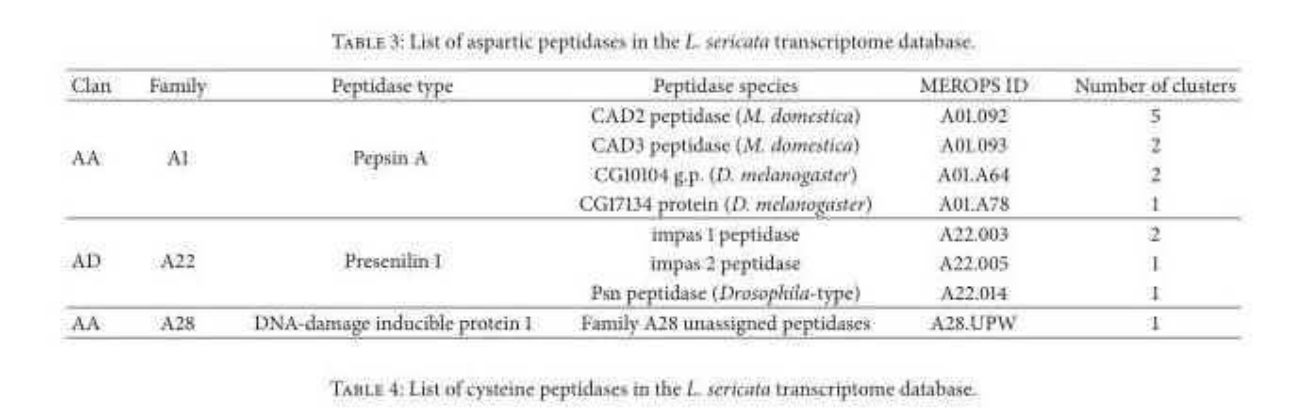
<table><thead><tr><td>Clan</td><td>Family</td><td>Peptidase type</td><td>Peptidase species</td><td>MEROPS ID</td><td>Number of clusters</td></tr></thead><tbody><tr><td rowspan="4">AA</td><td rowspan="4">A1</td><td rowspan="4">Pepsin A</td><td>CAD2 peptidase (M. domestica)</td><td>A01.092</td><td>5</td></tr><tr><td>CAD3 peptidase (M. domestica)</td><td>A01.093</td><td>2</td></tr><tr><td>CG10104 g.p. (D. melanogaster)</td><td>A01.A64</td><td>2</td></tr><tr><td>CG17134 protein (D. melanogaster)</td><td>A01.A78</td><td>1</td></tr><tr><td rowspan="3">AD</td><td rowspan="3">A22</td><td rowspan="3">Presenilin 1</td><td>impas 1 peptidase</td><td>A22.003</td><td>2</td></tr><tr><td>impas 2 peptidase</td><td>A22.005</td><td>1</td></tr><tr><td>Psn peptidase (Drosophila-type)</td><td>A22.014</td><td>1</td></tr><tr><td>AA</td><td>A28</td><td>DNA-damage inducible protein 1</td><td>Family A28 unassigned peptidases</td><td>A28.UPW</td><td>1</td></tr></tbody></table>